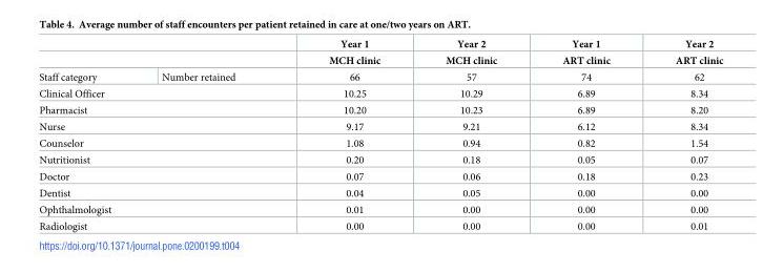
<table><thead><tr><td rowspan="2"></td><td rowspan="2"></td><td rowspan="2">Year 1 MCH clinic</td><td rowspan="2">Year 2 MCH clinic</td><td rowspan="2">Year 1 ART clinic</td><td rowspan="2">Year 2 ART clinic</td></tr><tr></tr></thead><tbody><tr><td>Staff category</td><td>Number retained</td><td>66</td><td>57</td><td>74</td><td>62</td></tr><tr><td colspan="2">Clinical Officer</td><td>10.25</td><td>10.29</td><td>6.89</td><td>8.34</td></tr><tr><td colspan="2">Pharmacist</td><td>10.20</td><td>10.23</td><td>6.89</td><td>8.20</td></tr><tr><td colspan="2">Nurse</td><td>9.17</td><td>9.21</td><td>6.12</td><td>8.34</td></tr><tr><td colspan="2">Counselor</td><td>1.08</td><td>0.94</td><td>0.82</td><td>1.54</td></tr><tr><td colspan="2">Nutritionist</td><td>0.20</td><td>0.18</td><td>0.05</td><td>0.07</td></tr><tr><td colspan="2">Doctor</td><td>0.07</td><td>0.06</td><td>0.18</td><td>0.23</td></tr><tr><td colspan="2">Dentist</td><td>0.04</td><td>0.05</td><td>0.00</td><td>0.00</td></tr><tr><td colspan="2">Ophthalmologist</td><td>0.01</td><td>0.00</td><td>0.00</td><td>0.00</td></tr><tr><td colspan="2">Radiologist</td><td>0.00</td><td>0.00</td><td>0.00</td><td>0.01</td></tr></tbody></table>